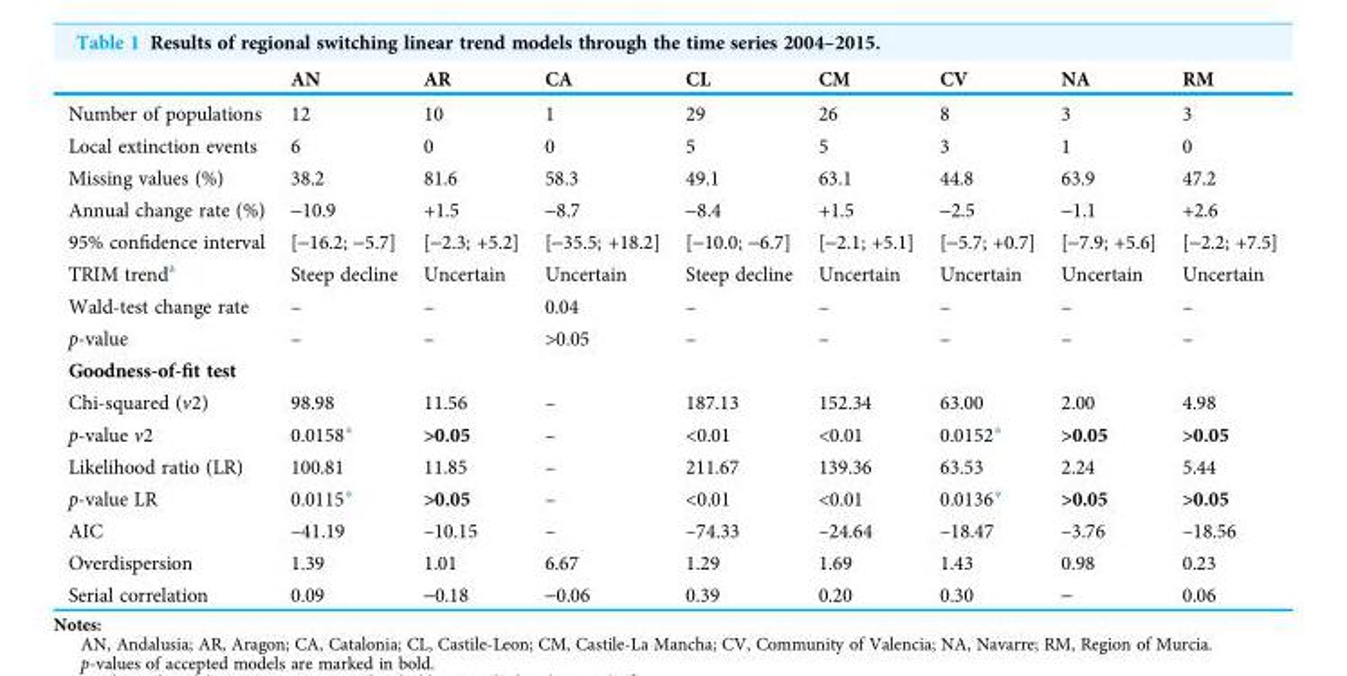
<table><thead><tr><td></td><td>AN</td><td>AR</td><td>CA</td><td>CL</td><td>CM</td><td>CV</td><td>NA</td><td>RM</td></tr></thead><tbody><tr><td>Number of populations</td><td>12</td><td>10</td><td>1</td><td>29</td><td>26</td><td>8</td><td>3</td><td>3</td></tr><tr><td>Local extinction events</td><td>6</td><td>0</td><td>0</td><td>5</td><td>5</td><td>3</td><td>1</td><td>0</td></tr><tr><td>Missing values (%)</td><td>38.2</td><td>81.6</td><td>58.3</td><td>49.1</td><td>63.1</td><td>44.8</td><td>63.9</td><td>47.2</td></tr><tr><td>Annual change rate (%)</td><td>-10.9</td><td>+1.5</td><td>-8.7</td><td>-8.4</td><td>+1.5</td><td>-2.5</td><td>-1.1</td><td>+2.6</td></tr><tr><td>95% confidence interval</td><td>[-16.2; -5.7]</td><td>[-2.3; +5.2]</td><td>[-35.5; +18.2]</td><td>[-10.0; -6.7]</td><td>[-2.1; +5.1]</td><td>[-5.7; +0.7]</td><td>[-7.9; +5.6]</td><td>[-2.2; +7.5]</td></tr><tr><td>TRIM trend<sup>a</sup></td><td>Steep decline</td><td>Uncertain</td><td>Uncertain</td><td>Steep decline</td><td>Uncertain</td><td>Uncertain</td><td>Uncertain</td><td>Uncertain</td></tr><tr><td>Wald-test change rate</td><td>–</td><td>–</td><td>0.04</td><td>–</td><td>–</td><td>–</td><td>–</td><td>–</td></tr><tr><td>p-value</td><td>–</td><td>–</td><td>&gt;0.05</td><td>–</td><td>–</td><td>–</td><td>–</td><td>–</td></tr><tr><td colspan="9">Goodness-of-fit test</td></tr><tr><td>Chi-squared (χ2)</td><td>98.98</td><td>11.56</td><td>–</td><td>187.13</td><td>152.34</td><td>63.00</td><td>2.00</td><td>4.98</td></tr><tr><td>p-value χ2</td><td>0.0158*</td><td>&gt;0.05</td><td>–</td><td>&lt;0.01</td><td>&lt;0.01</td><td>0.0152*</td><td>&gt;0.05</td><td>&gt;0.05</td></tr><tr><td>Likelihood ratio (LR)</td><td>100.81</td><td>11.85</td><td>–</td><td>211.67</td><td>139.36</td><td>63.53</td><td>2.24</td><td>5.44</td></tr><tr><td>p-value LR</td><td>0.0115*</td><td>&gt;0.05</td><td>–</td><td>&lt;0.01</td><td>&lt;0.01</td><td>0.0136*</td><td>&gt;0.05</td><td>&gt;0.05</td></tr><tr><td>AIC</td><td>–41.19</td><td>–10.15</td><td>–</td><td>–74.33</td><td>–24.64</td><td>–18.47</td><td>–3.76</td><td>–18.56</td></tr><tr><td>Overdispersion</td><td>1.39</td><td>1.01</td><td>6.67</td><td>1.29</td><td>1.69</td><td>1.43</td><td>0.98</td><td>0.23</td></tr><tr><td>Serial correlation</td><td>0.09</td><td>-0.18</td><td>-0.06</td><td>0.39</td><td>0.20</td><td>0.30</td><td>-</td><td>0.06</td></tr></tbody></table>